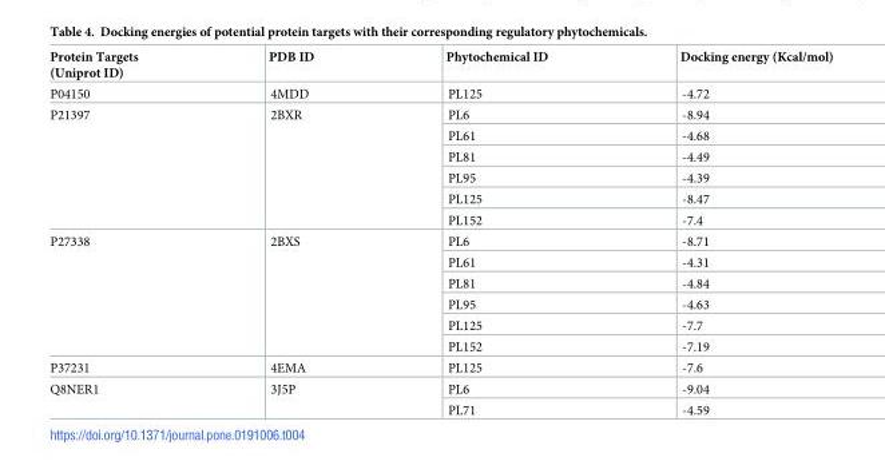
<table><thead><tr><td>Protein Targets (Uniprot ID)</td><td>PDB ID</td><td>Phytochemical ID</td><td>Docking energy (Kcal/mol)</td></tr></thead><tbody><tr><td>P04150</td><td>4MDD</td><td>PL125</td><td>-4.72</td></tr><tr><td rowspan="6">P21397</td><td rowspan="6">2BXR</td><td>PL6</td><td>-8.94</td></tr><tr><td>PL61</td><td>-4.68</td></tr><tr><td>PL81</td><td>-4.49</td></tr><tr><td>PL95</td><td>-4.39</td></tr><tr><td>PL125</td><td>-8.47</td></tr><tr><td>PL152</td><td>-7.4</td></tr><tr><td rowspan="6">P27338</td><td rowspan="6">2BXS</td><td>PL6</td><td>-8.71</td></tr><tr><td>PL61</td><td>-4.31</td></tr><tr><td>PL81</td><td>-4.84</td></tr><tr><td>PL95</td><td>-4.63</td></tr><tr><td>PL125</td><td>-7.7</td></tr><tr><td>PL152</td><td>-7.19</td></tr><tr><td>P37231</td><td>4EMA</td><td>PL125</td><td>-7.6</td></tr><tr><td rowspan="2">Q8NER1</td><td rowspan="2">3J5P</td><td>PL6</td><td>-9.04</td></tr><tr><td>PL71</td><td>-4.59</td></tr></tbody></table>